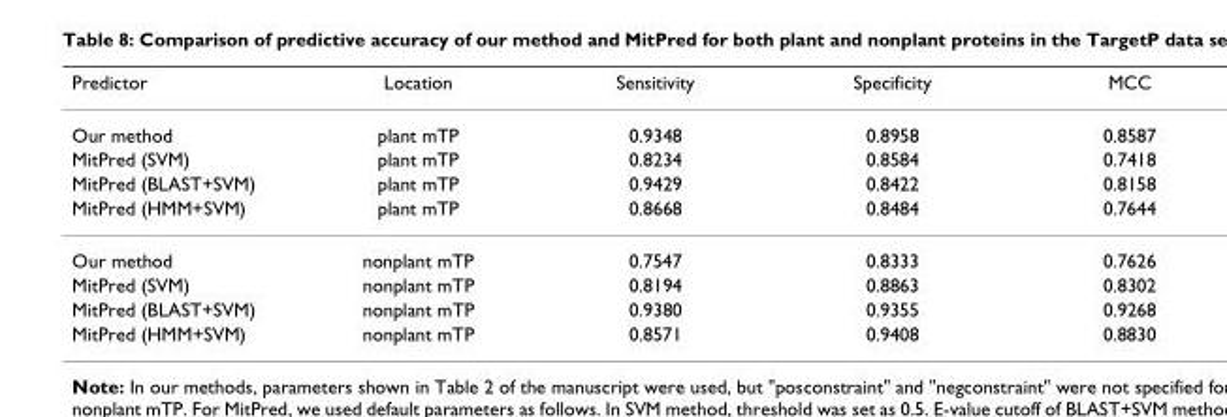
<table><thead><tr><td>Predictor</td><td>Location</td><td>Sensitivity</td><td>Specificity</td><td>MCC</td></tr></thead><tbody><tr><td>Our method</td><td>plant mTP</td><td>0.9348</td><td>0.8958</td><td>0.8587</td></tr><tr><td>MitPred (SVM)</td><td>plant mTP</td><td>0.8234</td><td>0.8584</td><td>0.7418</td></tr><tr><td>MitPred (BLAST+SVM)</td><td>plant mTP</td><td>0.9429</td><td>0.8422</td><td>0.8158</td></tr><tr><td>MitPred (HMM+SVM)</td><td>plant mTP</td><td>0.8668</td><td>0.8484</td><td>0.7644</td></tr><tr><td>Our method</td><td>nonplant mTP</td><td>0.7547</td><td>0.8333</td><td>0.7626</td></tr><tr><td>MitPred (SVM)</td><td>nonplant mTP</td><td>0.8194</td><td>0.8863</td><td>0.8302</td></tr><tr><td>MitPred (BLAST+SVM)</td><td>nonplant mTP</td><td>0.9380</td><td>0.9355</td><td>0.9268</td></tr><tr><td>MitPred (HMM+SVM)</td><td>nonplant mTP</td><td>0.8571</td><td>0.9408</td><td>0.8830</td></tr></tbody></table>